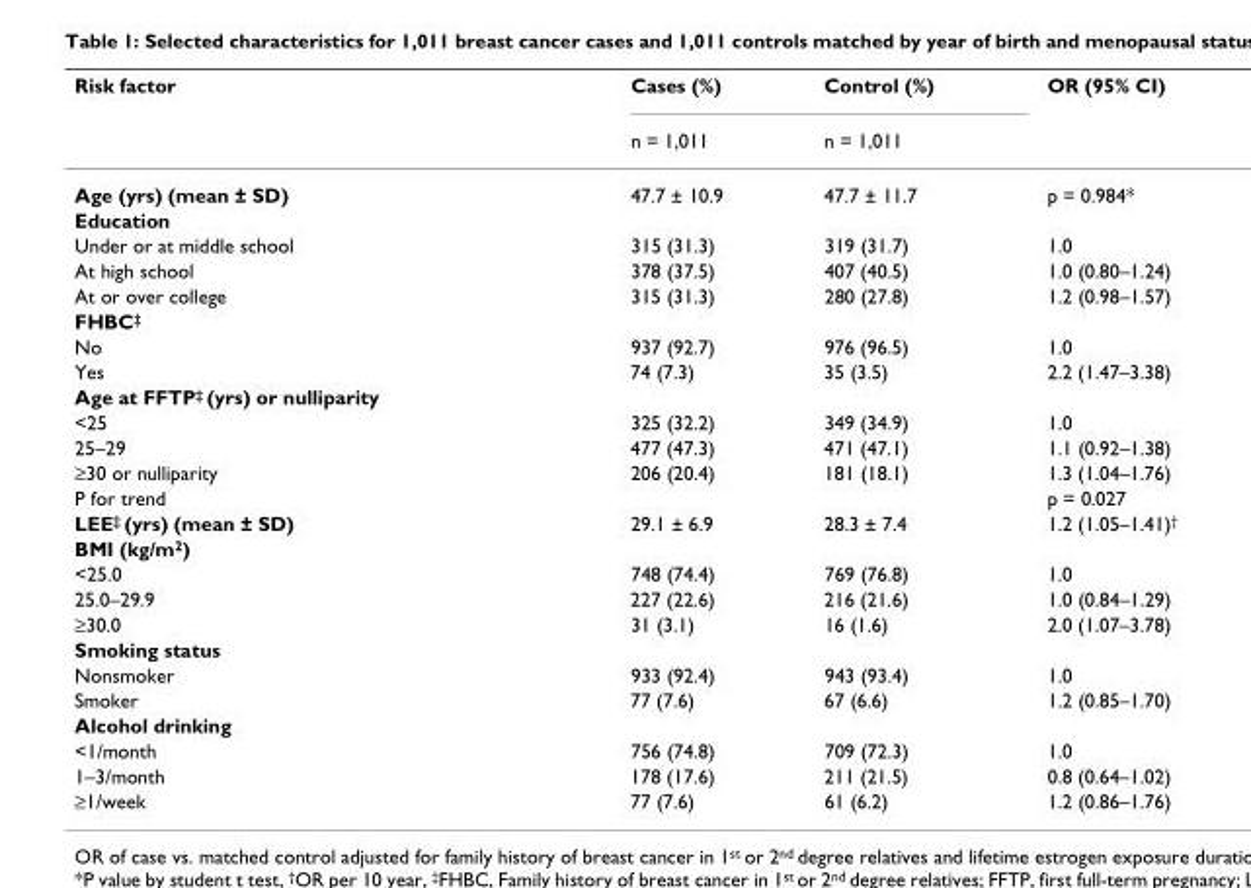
<table><thead><tr><td rowspan="2">Risk factor</td><td rowspan="2">Cases (%) n = 1,011</td><td rowspan="2">Control (%) n = 1,011</td><td rowspan="2">OR (95% CI)</td></tr><tr></tr></thead><tbody><tr><td>Age (yrs) (mean ± SD)</td><td>47.7 ± 10.9</td><td>47.7 ± 11.7</td><td>p = 0.984*</td></tr><tr><td colspan="4">Education</td></tr><tr><td>Under or at middle school</td><td>315 (31.3)</td><td>319 (31.7)</td><td>1.0</td></tr><tr><td>At high school</td><td>378 (37.5)</td><td>407 (40.5)</td><td>1.0 (0.80–1.24)</td></tr><tr><td>At or over college</td><td>315 (31.3)</td><td>280 (27.8)</td><td>1.2 (0.98–1.57)</td></tr><tr><td colspan="4">FHBC‡</td></tr><tr><td>No</td><td>937 (92.7)</td><td>976 (96.5)</td><td>1.0</td></tr><tr><td>Yes</td><td>74 (7.3)</td><td>35 (3.5)</td><td>2.2 (1.47–3.38)</td></tr><tr><td colspan="4">Age at FFTP‡ (yrs) or nulliparity</td></tr><tr><td>&lt;25</td><td>325 (32.2)</td><td>349 (34.9)</td><td>1.0</td></tr><tr><td>25–29</td><td>477 (47.3)</td><td>471 (47.1)</td><td>1.1 (0.92–1.38)</td></tr><tr><td>≥30 or nulliparity</td><td>206 (20.4)</td><td>181 (18.1)</td><td>1.3 (1.04–1.76)</td></tr><tr><td>P for trend</td><td></td><td></td><td>p = 0.027</td></tr><tr><td>LEE‡ (yrs) (mean ± SD)</td><td>29.1 ± 6.9</td><td>28.3 ± 7.4</td><td>1.2 (1.05–1.41)†</td></tr><tr><td colspan="4">BMI (kg/m2)</td></tr><tr><td>&lt;25.0</td><td>748 (74.4)</td><td>769 (76.8)</td><td>1.0</td></tr><tr><td>25.0–29.9</td><td>227 (22.6)</td><td>216 (21.6)</td><td>1.0 (0.84–1.29)</td></tr><tr><td>≥30.0</td><td>31 (3.1)</td><td>16 (1.6)</td><td>2.0 (1.07–3.78)</td></tr><tr><td colspan="4">Smoking status</td></tr><tr><td>Nonsmoker</td><td>933 (92.4)</td><td>943 (93.4)</td><td>1.0</td></tr><tr><td>Smoker</td><td>77 (7.6)</td><td>67 (6.6)</td><td>1.2 (0.85–1.70)</td></tr><tr><td colspan="4">Alcohol drinking</td></tr><tr><td>&lt;1/month</td><td>756 (74.8)</td><td>709 (72.3)</td><td>1.0</td></tr><tr><td>1–3/month</td><td>178 (17.6)</td><td>211 (21.5)</td><td>0.8 (0.64–1.02)</td></tr><tr><td>≥1/week</td><td>77 (7.6)</td><td>61 (6.2)</td><td>1.2 (0.86–1.76)</td></tr></tbody></table>